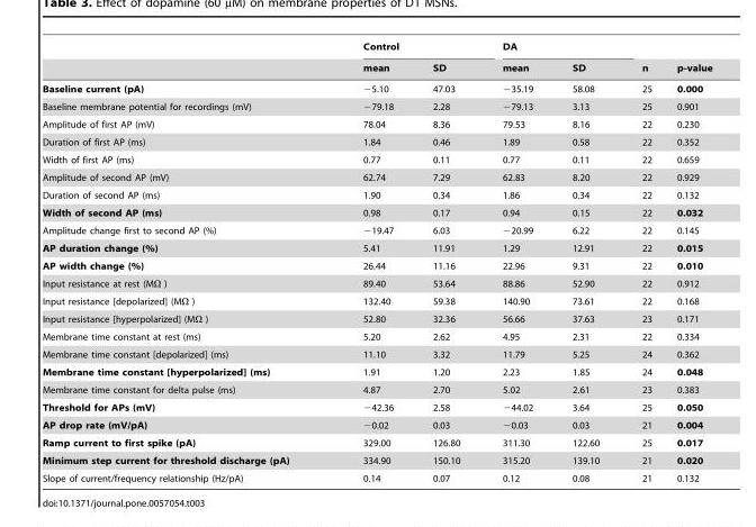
<table><thead><tr><td rowspan="2"></td><td colspan="2">Control</td><td colspan="2">DA</td><td rowspan="2">n</td><td rowspan="2">p-value</td></tr><tr><td>mean</td><td>SD</td><td>mean</td><td>SD</td></tr></thead><tbody><tr><td>Baseline current (pA)</td><td>−5.10</td><td>47.03</td><td>−35.19</td><td>58.08</td><td>25</td><td>0.000</td></tr><tr><td>Baseline membrane potential for recordings (mV)</td><td>−79.18</td><td>2.28</td><td>−79.13</td><td>3.13</td><td>25</td><td>0.901</td></tr><tr><td>Amplitude of first AP (mV)</td><td>78.04</td><td>8.36</td><td>79.53</td><td>8.16</td><td>22</td><td>0.230</td></tr><tr><td>Duration of first AP (ms)</td><td>1.84</td><td>0.46</td><td>1.89</td><td>0.58</td><td>22</td><td>0.352</td></tr><tr><td>Width of first AP (ms)</td><td>0.77</td><td>0.11</td><td>0.77</td><td>0.11</td><td>22</td><td>0.659</td></tr><tr><td>Amplitude of second AP (mV)</td><td>62.74</td><td>7.29</td><td>62.83</td><td>8.20</td><td>22</td><td>0.929</td></tr><tr><td>Duration of second AP (ms)</td><td>1.90</td><td>0.34</td><td>1.86</td><td>0.34</td><td>22</td><td>0.132</td></tr><tr><td>Width of second AP (ms)</td><td>0.98</td><td>0.17</td><td>0.94</td><td>0.15</td><td>22</td><td>0.032</td></tr><tr><td>Amplitude change first to second AP (%)</td><td>−19.47</td><td>6.03</td><td>−20.99</td><td>6.22</td><td>22</td><td>0.145</td></tr><tr><td>AP duration change (%)</td><td>5.41</td><td>11.91</td><td>1.29</td><td>12.91</td><td>22</td><td>0.015</td></tr><tr><td>AP width change (%)</td><td>26.44</td><td>11.16</td><td>22.96</td><td>9.31</td><td>22</td><td>0.010</td></tr><tr><td>Input resistance at rest (MΩ )</td><td>89.40</td><td>53.64</td><td>88.86</td><td>52.90</td><td>22</td><td>0.912</td></tr><tr><td>Input resistance [depolarized] (MΩ )</td><td>132.40</td><td>59.38</td><td>140.90</td><td>73.61</td><td>22</td><td>0.168</td></tr><tr><td>Input resistance [hyperpolarized] (MΩ )</td><td>52.80</td><td>32.36</td><td>56.66</td><td>37.63</td><td>23</td><td>0.171</td></tr><tr><td>Membrane time constant at rest (ms)</td><td>5.20</td><td>2.62</td><td>4.95</td><td>2.31</td><td>22</td><td>0.334</td></tr><tr><td>Membrane time constant [depolarized] (ms)</td><td>11.10</td><td>3.32</td><td>11.79</td><td>5.25</td><td>24</td><td>0.362</td></tr><tr><td>Membrane time constant [hyperpolarized] (ms)</td><td>1.91</td><td>1.20</td><td>2.23</td><td>1.85</td><td>24</td><td>0.048</td></tr><tr><td>Membrane time constant for delta pulse (ms)</td><td>4.87</td><td>2.70</td><td>5.02</td><td>2.61</td><td>23</td><td>0.383</td></tr><tr><td>Threshold for APs (mV)</td><td>−42.36</td><td>2.58</td><td>−44.02</td><td>3.64</td><td>25</td><td>0.050</td></tr><tr><td>AP drop rate (mV/pA)</td><td>−0.02</td><td>0.03</td><td>−0.03</td><td>0.03</td><td>21</td><td>0.004</td></tr><tr><td>Ramp current to first spike (pA)</td><td>329.00</td><td>126.80</td><td>311.30</td><td>122.60</td><td>25</td><td>0.017</td></tr><tr><td>Minimum step current for threshold discharge (pA)</td><td>334.90</td><td>150.10</td><td>315.20</td><td>139.10</td><td>21</td><td>0.020</td></tr><tr><td>Slope of current/frequency relationship (Hz/pA)</td><td>0.14</td><td>0.07</td><td>0.12</td><td>0.08</td><td>21</td><td>0.132</td></tr></tbody></table>